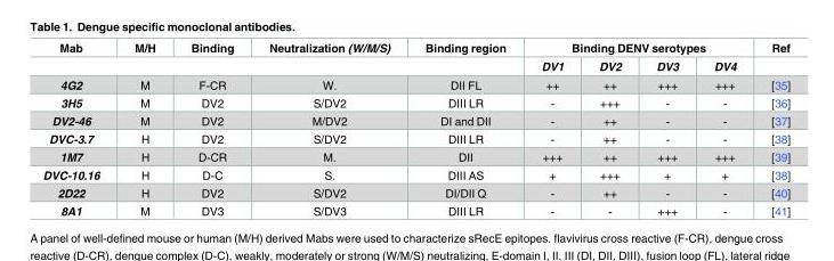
<table><thead><tr><td rowspan="2">Mab</td><td rowspan="2">M/H</td><td rowspan="2">Binding</td><td rowspan="2">Neutralization (W/M/S)</td><td rowspan="2">Binding region</td><td colspan="4">Binding DENV serotypes</td><td rowspan="2">Ref</td></tr><tr><td>DV1</td><td>DV2</td><td>DV3</td><td>DV4</td></tr></thead><tbody><tr><td>4G2</td><td>M</td><td>F-CR</td><td>W.</td><td>DII FL</td><td>++</td><td>++</td><td>+++</td><td>+++</td><td>[35]</td></tr><tr><td>3H5</td><td>M</td><td>DV2</td><td>S/DV2</td><td>DIII LR</td><td>-</td><td>+++</td><td>-</td><td>-</td><td>[36]</td></tr><tr><td>DV2-46</td><td>M</td><td>DV2</td><td>M/DV2</td><td>DI and DII</td><td>-</td><td>++</td><td>-</td><td>-</td><td>[37]</td></tr><tr><td>DVC-3.7</td><td>H</td><td>DV2</td><td>S/DV2</td><td>DIII LR</td><td>-</td><td>++</td><td>-</td><td>-</td><td>[38]</td></tr><tr><td>1M7</td><td>H</td><td>D-CR</td><td>M.</td><td>DII</td><td>+++</td><td>++</td><td>+++</td><td>+++</td><td>[39]</td></tr><tr><td>DVC-10.16</td><td>H</td><td>D-C</td><td>S.</td><td>DIII AS</td><td>+</td><td>+++</td><td>+</td><td>+</td><td>[38]</td></tr><tr><td>2D22</td><td>H</td><td>DV2</td><td>S/DV2</td><td>DI/DII Q</td><td>-</td><td>++</td><td>-</td><td>-</td><td>[40]</td></tr><tr><td>8A1</td><td>M</td><td>DV3</td><td>S/DV3</td><td>DIII LR</td><td>-</td><td>-</td><td>+++</td><td>-</td><td>[41]</td></tr></tbody></table>